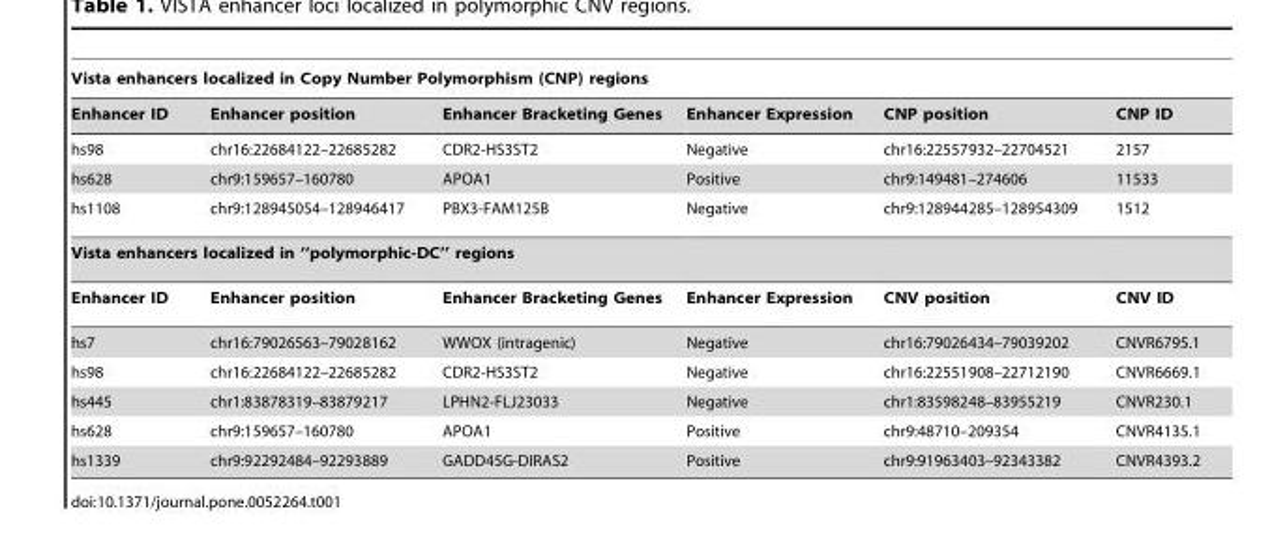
<table><thead><tr><td colspan="6">Vista enhancers localized in Copy Number Polymorphism (CNP) regions</td></tr><tr><td>Enhancer ID</td><td>Enhancer position</td><td>Enhancer Bracketing Genes</td><td>Enhancer Expression</td><td>CNP position</td><td>CNP ID</td></tr></thead><tbody><tr><td>hs98</td><td>chr16:22684122–22685282</td><td>CDR2-HS3ST2</td><td>Negative</td><td>chr16:22557932–22704521</td><td>2157</td></tr><tr><td>hs628</td><td>chr9:159657–160780</td><td>APOA1</td><td>Positive</td><td>chr9:149481–274606</td><td>11533</td></tr><tr><td>hs1108</td><td>chr9:128945054–128946417</td><td>PBX3-FAM125B</td><td>Negative</td><td>chr9:128944285–128954309</td><td>1512</td></tr><tr><td colspan="6">Vista enhancers localized in ‘‘polymorphic-DC’’ regions</td></tr><tr><td>Enhancer ID</td><td>Enhancer position</td><td>Enhancer Bracketing Genes</td><td>Enhancer Expression</td><td>CNV position</td><td>CNV ID</td></tr><tr><td>hs7</td><td>chr16:79026563–79028162</td><td>WWOX (intragenic)</td><td>Negative</td><td>chr16:79026434–79039202</td><td>CNVR6795.1</td></tr><tr><td>hs98</td><td>chr16:22684122–22685282</td><td>CDR2-HS3ST2</td><td>Negative</td><td>chr16:22551908–22712190</td><td>CNVR6669.1</td></tr><tr><td>hs445</td><td>chr1:83878319–83879217</td><td>LPHN2-FLJ23033</td><td>Negative</td><td>chr1:83598248–83955219</td><td>CNVR230.1</td></tr><tr><td>hs628</td><td>chr9:159657–160780</td><td>APOA1</td><td>Positive</td><td>chr9:48710–209354</td><td>CNVR4135.1</td></tr><tr><td>hs1339</td><td>chr9:92292484–92293889</td><td>GADD45G-DIRAS2</td><td>Positive</td><td>chr9:91963403–92343382</td><td>CNVR4393.2</td></tr></tbody></table>